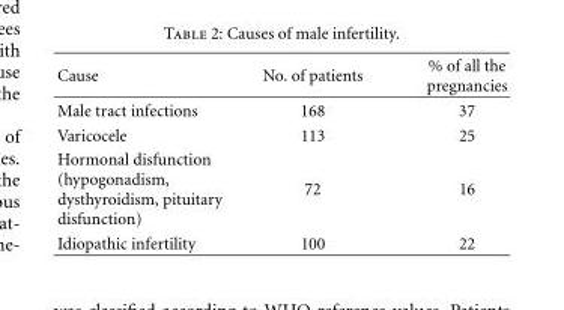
<table><thead><tr><td>Cause</td><td>No. of patients</td><td>% of all the pregnancies</td></tr></thead><tbody><tr><td>Male tract infections</td><td>168</td><td>37</td></tr><tr><td>Varicocele</td><td>113</td><td>25</td></tr><tr><td>Hormonal disfunction (hypogonadism, dysthyroidism, pituitary disfunction)</td><td>72</td><td>16</td></tr><tr><td>Idiopathic infertility</td><td>100</td><td>22</td></tr></tbody></table>